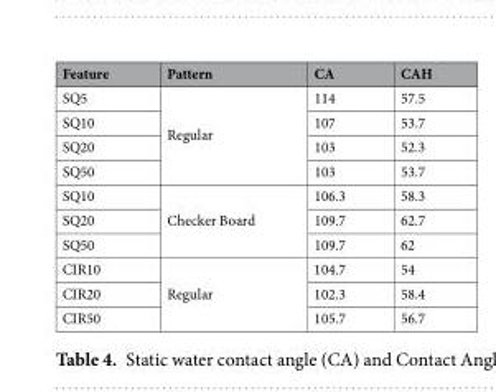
<table><thead><tr><td>Feature</td><td>Pattern</td><td>CA</td><td>CAH</td></tr></thead><tbody><tr><td>SQ5</td><td rowspan="4">Regular</td><td>114</td><td>57.5</td></tr><tr><td>SQ10</td><td>107</td><td>53.7</td></tr><tr><td>SQ20</td><td>103</td><td>52.3</td></tr><tr><td>SQ50</td><td>103</td><td>53.7</td></tr><tr><td>SQ10</td><td rowspan="3">Checker Board</td><td>106.3</td><td>58.3</td></tr><tr><td>SQ20</td><td>109.7</td><td>62.7</td></tr><tr><td>SQ50</td><td>109.7</td><td>62</td></tr><tr><td>CIR10</td><td rowspan="3">Regular</td><td>104.7</td><td>54</td></tr><tr><td>CIR20</td><td>102.3</td><td>58.4</td></tr><tr><td>CIR50</td><td>105.7</td><td>56.7</td></tr></tbody></table>